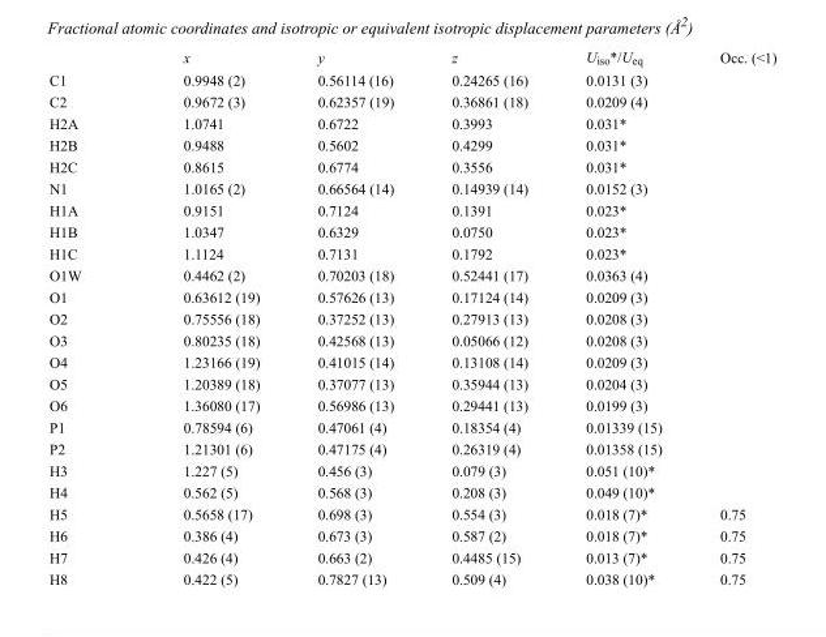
<table><thead><tr><td></td><td>x</td><td>y</td><td>z</td><td>U<sub>iso</sub>*/U<sub>eq</sub></td><td>Occ. (&lt;1)</td></tr></thead><tbody><tr><td>C1</td><td>0.9948 (2)</td><td>0.56114 (16)</td><td>0.24265 (16)</td><td>0.0131 (3)</td><td></td></tr><tr><td>C2</td><td>0.9672 (3)</td><td>0.62357 (19)</td><td>0.36861 (18)</td><td>0.0209 (4)</td><td></td></tr><tr><td>H2A</td><td>1.0741</td><td>0.6722</td><td>0.3993</td><td>0.031*</td><td></td></tr><tr><td>H2B</td><td>0.9488</td><td>0.5602</td><td>0.4299</td><td>0.031*</td><td></td></tr><tr><td>H2C</td><td>0.8615</td><td>0.6774</td><td>0.3556</td><td>0.031*</td><td></td></tr><tr><td>N1</td><td>1.0165 (2)</td><td>0.66564 (14)</td><td>0.14939 (14)</td><td>0.0152 (3)</td><td></td></tr><tr><td>H1A</td><td>0.9151</td><td>0.7124</td><td>0.1391</td><td>0.023*</td><td></td></tr><tr><td>H1B</td><td>1.0347</td><td>0.6329</td><td>0.0750</td><td>0.023*</td><td></td></tr><tr><td>H1C</td><td>1.1124</td><td>0.7131</td><td>0.1792</td><td>0.023*</td><td></td></tr><tr><td>O1W</td><td>0.4462 (2)</td><td>0.70203 (18)</td><td>0.52441 (17)</td><td>0.0363 (4)</td><td></td></tr><tr><td>O1</td><td>0.63612 (19)</td><td>0.57626 (13)</td><td>0.17124 (14)</td><td>0.0209 (3)</td><td></td></tr><tr><td>O2</td><td>0.75556 (18)</td><td>0.37252 (13)</td><td>0.27913 (13)</td><td>0.0208 (3)</td><td></td></tr><tr><td>O3</td><td>0.80235 (18)</td><td>0.42568 (13)</td><td>0.05066 (12)</td><td>0.0208 (3)</td><td></td></tr><tr><td>O4</td><td>1.23166 (19)</td><td>0.41015 (14)</td><td>0.13108 (14)</td><td>0.0209 (3)</td><td></td></tr><tr><td>O5</td><td>1.20389 (18)</td><td>0.37077 (13)</td><td>0.35944 (13)</td><td>0.0204 (3)</td><td></td></tr><tr><td>O6</td><td>1.36080 (17)</td><td>0.56986 (13)</td><td>0.29441 (13)</td><td>0.0199 (3)</td><td></td></tr><tr><td>P1</td><td>0.78594 (6)</td><td>0.47061 (4)</td><td>0.18354 (4)</td><td>0.01339 (15)</td><td></td></tr><tr><td>P2</td><td>1.21301 (6)</td><td>0.47175 (4)</td><td>0.26319 (4)</td><td>0.01358 (15)</td><td></td></tr><tr><td>H3</td><td>1.227 (5)</td><td>0.456 (3)</td><td>0.079 (3)</td><td>0.051 (10)*</td><td></td></tr><tr><td>H4</td><td>0.562 (5)</td><td>0.568 (3)</td><td>0.208 (3)</td><td>0.049 (10)*</td><td></td></tr><tr><td>H5</td><td>0.5658 (17)</td><td>0.698 (3)</td><td>0.554 (3)</td><td>0.018 (7)*</td><td>0.75</td></tr><tr><td>H6</td><td>0.386 (4)</td><td>0.673 (3)</td><td>0.587 (2)</td><td>0.018 (7)*</td><td>0.75</td></tr><tr><td>H7</td><td>0.426 (4)</td><td>0.663 (2)</td><td>0.4485 (15)</td><td>0.013 (7)*</td><td>0.75</td></tr><tr><td>H8</td><td>0.422 (5)</td><td>0.7827 (13)</td><td>0.509 (4)</td><td>0.038 (10)*</td><td>0.75</td></tr></tbody></table>